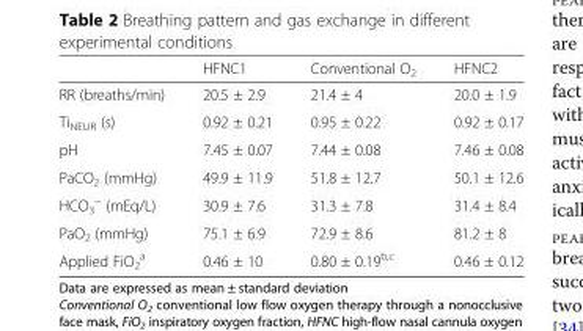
<table><thead><tr><td></td><td>HFNC1</td><td>Conventional O<sub>2</sub></td><td>HFNC2</td></tr></thead><tbody><tr><td>RR (breaths/min)</td><td>20.5 ± 2.9</td><td>21.4 ± 4</td><td>20.0 ± 1.9</td></tr><tr><td>Ti<sub>NEUR</sub> (s)</td><td>0.92 ± 0.21</td><td>0.95 ± 0.22</td><td>0.92 ± 0.17</td></tr><tr><td>pH</td><td>7.45 ± 0.07</td><td>7.44 ± 0.08</td><td>7.46 ± 0.08</td></tr><tr><td>PaCO<sub>2</sub> (mmHg)</td><td>49.9 ± 11.9</td><td>51.8 ± 12.7</td><td>50.1 ± 12.6</td></tr><tr><td>HCO<sub>3</sub> <sup>−</sup> (mEq/L)</td><td>30.9 ± 7.6</td><td>31.3 ± 7.8</td><td>31.4 ± 8.4</td></tr><tr><td>PaO<sub>2</sub> (mmHg)</td><td>75.1 ± 6.9</td><td>72.9 ± 8.6</td><td>81.2 ± 8</td></tr><tr><td>Applied FiO<sub>2</sub> <sup>a</sup></td><td>0.46 ± 10</td><td>0.80 ± 0.19<sup>b,c</sup></td><td>0.46 ± 0.12</td></tr></tbody></table>